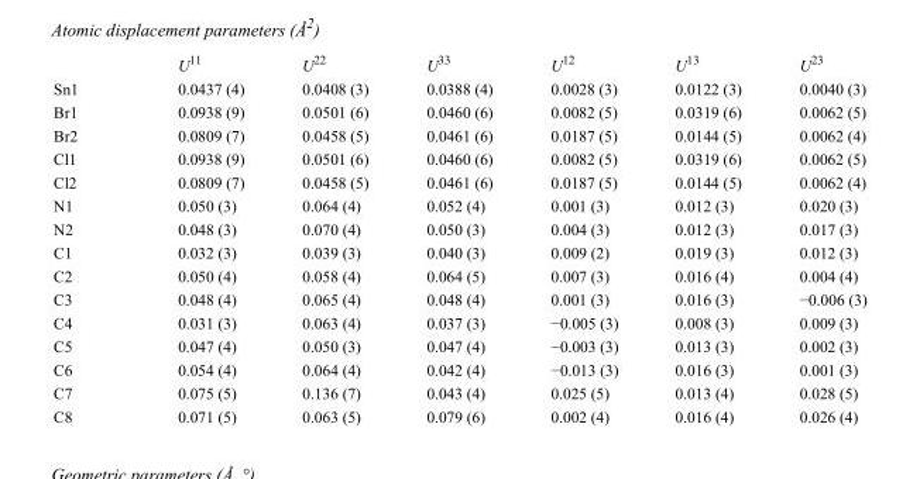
<table><thead><tr><td></td><td>U<sup>11</sup></td><td>U<sup>22</sup></td><td>U<sup>33</sup></td><td>U<sup>12</sup></td><td>U<sup>13</sup></td><td>U<sup>23</sup></td></tr></thead><tbody><tr><td>Sn1</td><td>0.0437 (4)</td><td>0.0408 (3)</td><td>0.0388 (4)</td><td>0.0028 (3)</td><td>0.0122 (3)</td><td>0.0040 (3)</td></tr><tr><td>Br1</td><td>0.0938 (9)</td><td>0.0501 (6)</td><td>0.0460 (6)</td><td>0.0082 (5)</td><td>0.0319 (6)</td><td>0.0062 (5)</td></tr><tr><td>Br2</td><td>0.0809 (7)</td><td>0.0458 (5)</td><td>0.0461 (6)</td><td>0.0187 (5)</td><td>0.0144 (5)</td><td>0.0062 (4)</td></tr><tr><td>Cl1</td><td>0.0938 (9)</td><td>0.0501 (6)</td><td>0.0460 (6)</td><td>0.0082 (5)</td><td>0.0319 (6)</td><td>0.0062 (5)</td></tr><tr><td>Cl2</td><td>0.0809 (7)</td><td>0.0458 (5)</td><td>0.0461 (6)</td><td>0.0187 (5)</td><td>0.0144 (5)</td><td>0.0062 (4)</td></tr><tr><td>N1</td><td>0.050 (3)</td><td>0.064 (4)</td><td>0.052 (4)</td><td>0.001 (3)</td><td>0.012 (3)</td><td>0.020 (3)</td></tr><tr><td>N2</td><td>0.048 (3)</td><td>0.070 (4)</td><td>0.050 (3)</td><td>0.004 (3)</td><td>0.012 (3)</td><td>0.017 (3)</td></tr><tr><td>C1</td><td>0.032 (3)</td><td>0.039 (3)</td><td>0.040 (3)</td><td>0.009 (2)</td><td>0.019 (3)</td><td>0.012 (3)</td></tr><tr><td>C2</td><td>0.050 (4)</td><td>0.058 (4)</td><td>0.064 (5)</td><td>0.007 (3)</td><td>0.016 (4)</td><td>0.004 (4)</td></tr><tr><td>C3</td><td>0.048 (4)</td><td>0.065 (4)</td><td>0.048 (4)</td><td>0.001 (3)</td><td>0.016 (3)</td><td>−0.006 (3)</td></tr><tr><td>C4</td><td>0.031 (3)</td><td>0.063 (4)</td><td>0.037 (3)</td><td>−0.005 (3)</td><td>0.008 (3)</td><td>0.009 (3)</td></tr><tr><td>C5</td><td>0.047 (4)</td><td>0.050 (3)</td><td>0.047 (4)</td><td>−0.003 (3)</td><td>0.013 (3)</td><td>0.002 (3)</td></tr><tr><td>C6</td><td>0.054 (4)</td><td>0.064 (4)</td><td>0.042 (4)</td><td>−0.013 (3)</td><td>0.016 (3)</td><td>0.001 (3)</td></tr><tr><td>C7</td><td>0.075 (5)</td><td>0.136 (7)</td><td>0.043 (4)</td><td>0.025 (5)</td><td>0.013 (4)</td><td>0.028 (5)</td></tr><tr><td>C8</td><td>0.071 (5)</td><td>0.063 (5)</td><td>0.079 (6)</td><td>0.002 (4)</td><td>0.016 (4)</td><td>0.026 (4)</td></tr></tbody></table>